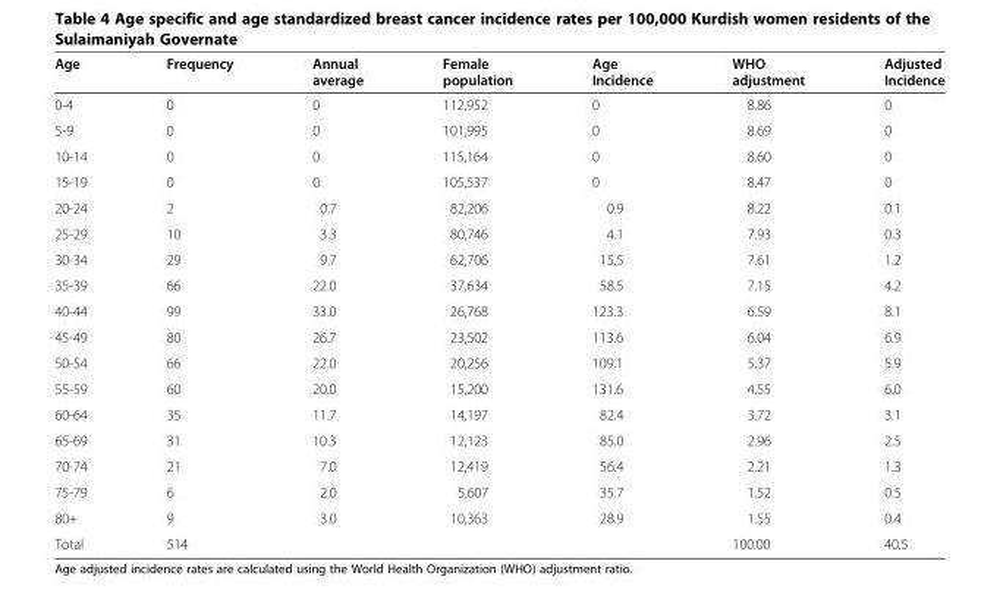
<table><thead><tr><td>Age</td><td>Frequency</td><td>Annual average</td><td>Female population</td><td>Age Incidence</td><td>WHO adjustment</td><td>Adjusted Incidence</td></tr></thead><tbody><tr><td>0-4</td><td>0</td><td>0</td><td>112,952</td><td>0</td><td>8.86</td><td>0</td></tr><tr><td>5-9</td><td>0</td><td>0</td><td>101,995</td><td>0</td><td>8.69</td><td>0</td></tr><tr><td>10-14</td><td>0</td><td>0</td><td>115,164</td><td>0</td><td>8.60</td><td>0</td></tr><tr><td>15-19</td><td>0</td><td>0</td><td>105,537</td><td>0</td><td>8.47</td><td>0</td></tr><tr><td>20-24</td><td>2</td><td>0.7</td><td>82,206</td><td>0.9</td><td>8.22</td><td>0.1</td></tr><tr><td>25-29</td><td>10</td><td>3.3</td><td>80,746</td><td>4.1</td><td>7.93</td><td>0.3</td></tr><tr><td>30-34</td><td>29</td><td>9.7</td><td>62,706</td><td>15.5</td><td>7.61</td><td>1.2</td></tr><tr><td>35-39</td><td>66</td><td>22.0</td><td>37,634</td><td>58.5</td><td>7.15</td><td>4.2</td></tr><tr><td>40-44</td><td>99</td><td>33.0</td><td>26,768</td><td>123.3</td><td>6.59</td><td>8.1</td></tr><tr><td>45-49</td><td>80</td><td>26.7</td><td>23,502</td><td>113.6</td><td>6.04</td><td>6.9</td></tr><tr><td>50-54</td><td>66</td><td>22.0</td><td>20,256</td><td>109.1</td><td>5.37</td><td>5.9</td></tr><tr><td>55-59</td><td>60</td><td>20.0</td><td>15,200</td><td>131.6</td><td>4.55</td><td>6.0</td></tr><tr><td>60-64</td><td>35</td><td>11.7</td><td>14,197</td><td>82.4</td><td>3.72</td><td>3.1</td></tr><tr><td>65-69</td><td>31</td><td>10.3</td><td>12,123</td><td>85.0</td><td>2.96</td><td>2.5</td></tr><tr><td>70-74</td><td>21</td><td>7.0</td><td>12,419</td><td>56.4</td><td>2.21</td><td>1.3</td></tr><tr><td>75-79</td><td>6</td><td>2.0</td><td>5,607</td><td>35.7</td><td>1.52</td><td>0.5</td></tr><tr><td>80+</td><td>9</td><td>3.0</td><td>10,363</td><td>28.9</td><td>1.55</td><td>0.4</td></tr><tr><td>Total</td><td>514</td><td></td><td></td><td></td><td>100.00</td><td>40.5</td></tr></tbody></table>